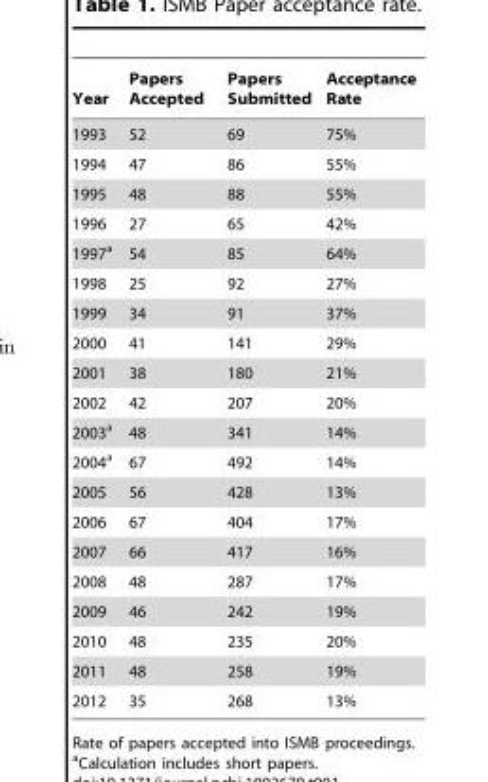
<table><thead><tr><td>Year</td><td>Papers Accepted</td><td>Papers Submitted</td><td>Acceptance Rate</td></tr></thead><tbody><tr><td>1993</td><td>52</td><td>69</td><td>75%</td></tr><tr><td>1994</td><td>47</td><td>86</td><td>55%</td></tr><tr><td>1995</td><td>48</td><td>88</td><td>55%</td></tr><tr><td>1996</td><td>27</td><td>65</td><td>42%</td></tr><tr><td>1997<sup>a</sup></td><td>54</td><td>85</td><td>64%</td></tr><tr><td>1998</td><td>25</td><td>92</td><td>27%</td></tr><tr><td>1999</td><td>34</td><td>91</td><td>37%</td></tr><tr><td>2000</td><td>41</td><td>141</td><td>29%</td></tr><tr><td>2001</td><td>38</td><td>180</td><td>21%</td></tr><tr><td>2002</td><td>42</td><td>207</td><td>20%</td></tr><tr><td>2003<sup>a</sup></td><td>48</td><td>341</td><td>14%</td></tr><tr><td>2004<sup>a</sup></td><td>67</td><td>492</td><td>14%</td></tr><tr><td>2005</td><td>56</td><td>428</td><td>13%</td></tr><tr><td>2006</td><td>67</td><td>404</td><td>17%</td></tr><tr><td>2007</td><td>66</td><td>417</td><td>16%</td></tr><tr><td>2008</td><td>48</td><td>287</td><td>17%</td></tr><tr><td>2009</td><td>46</td><td>242</td><td>19%</td></tr><tr><td>2010</td><td>48</td><td>235</td><td>20%</td></tr><tr><td>2011</td><td>48</td><td>258</td><td>19%</td></tr><tr><td>2012</td><td>35</td><td>268</td><td>13%</td></tr></tbody></table>